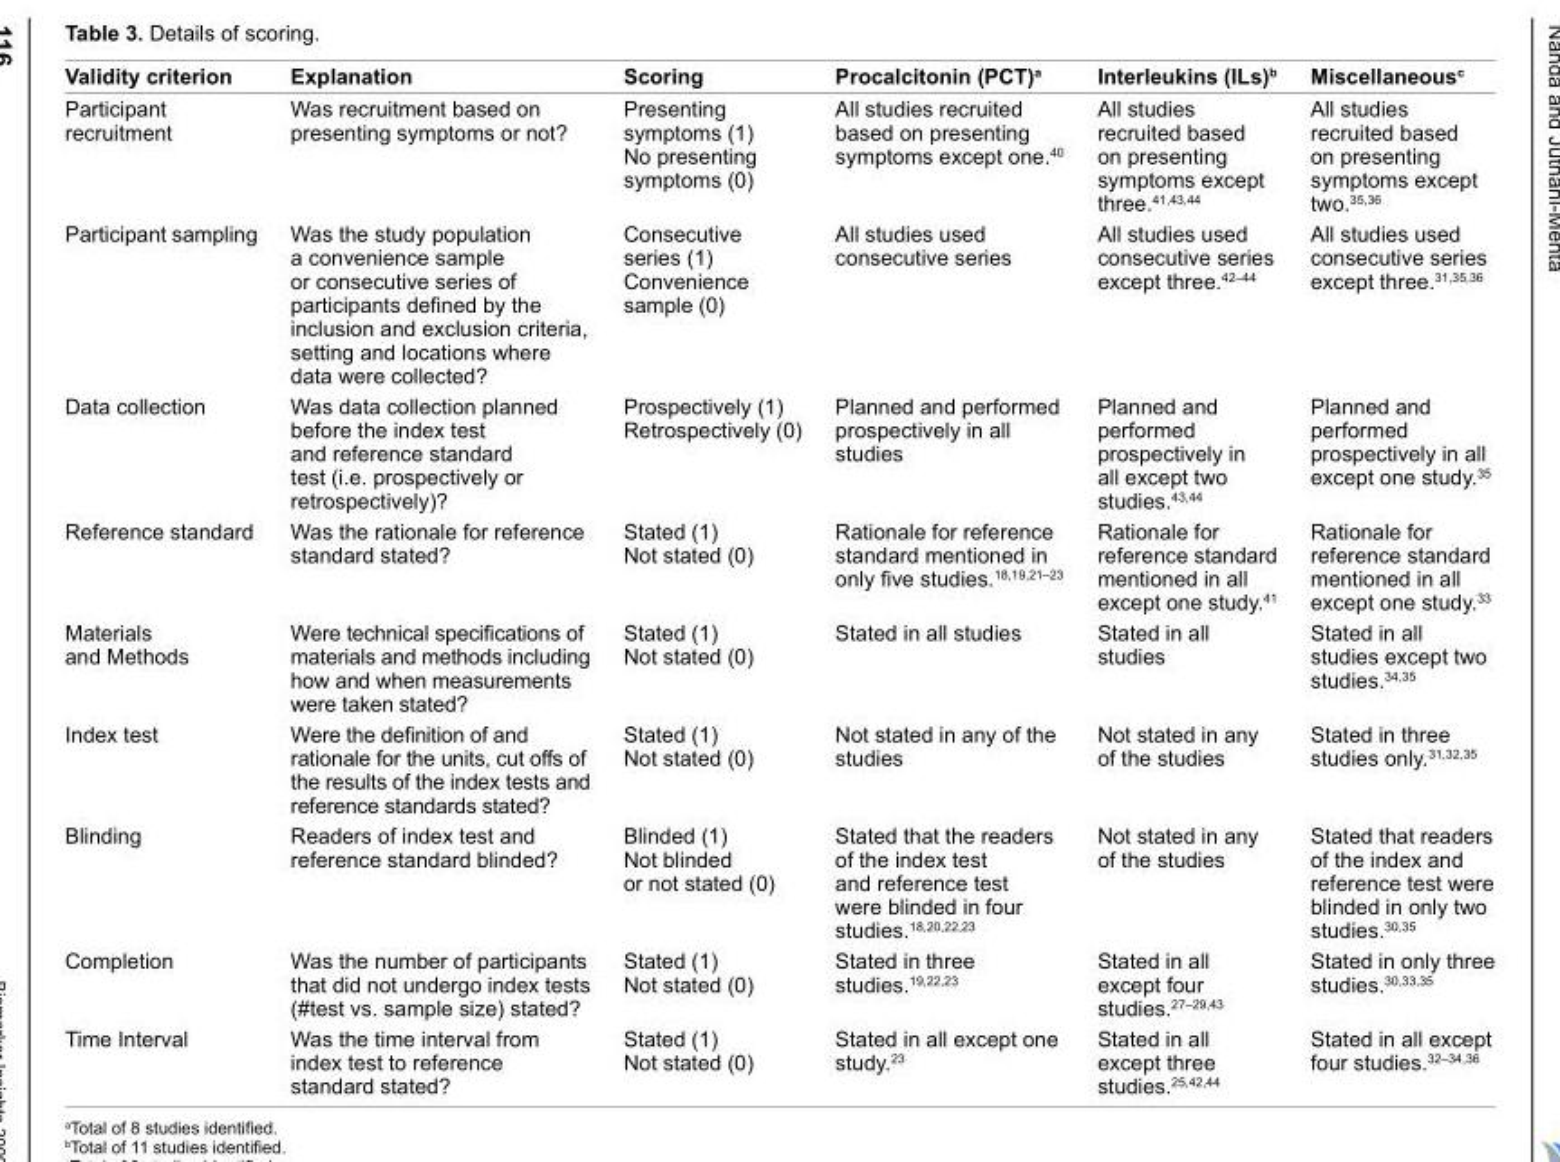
<table><thead><tr><td>Validity criterion</td><td>explanation</td><td>scoring</td><td>procalcitonin (pcT)<sup>a</sup></td><td>Interleukins (ILs)<sup>b</sup></td><td>Miscellaneous<sup>c</sup></td></tr></thead><tbody><tr><td>Participant recruitment</td><td>was recruitment based on presenting symptoms or not?</td><td>Presenting symptoms (1) No presenting symptoms (0)</td><td>All studies recruited based on presenting symptoms except one.<sup>40</sup></td><td>All studies recruited based on presenting symptoms except three.<sup>41</sup>,<sup>43</sup>,<sup>44</sup></td><td>All studies recruited based on presenting symptoms except two.<sup>35</sup>,<sup>36</sup></td></tr><tr><td>Participant sampling</td><td>was the study population a convenience sample or consecutive series of participants defined by the inclusion and exclusion criteria, setting and locations where data were collected?</td><td>Consecutive series (1) Convenience sample (0)</td><td>All studies used consecutive series</td><td>All studies used consecutive series except three.<sup>42</sup>–<sup>44</sup></td><td>All studies used consecutive series except three.<sup>31</sup>,<sup>35</sup>,<sup>36</sup></td></tr><tr><td>Data collection</td><td>was data collection planned before the index test and reference standard test (i.e. prospectively or retrospectively)?</td><td>Prospectively (1) Retrospectively (0)</td><td>Planned and performed prospectively in all studies</td><td>Planned and performed prospectively in all except two studies.<sup>43</sup>,<sup>44</sup></td><td>Planned and performed prospectively in all except one study.<sup>35</sup></td></tr><tr><td>Reference standard</td><td>was the rationale for reference standard stated?</td><td>Stated (1) Not stated (0)</td><td>Rationale for reference standard mentioned in only five studies.<sup>18</sup>,<sup>19</sup>,<sup>21</sup>–<sup>23</sup></td><td>Rationale for reference standard mentioned in all except one study.<sup>41</sup></td><td>Rationale for reference standard mentioned in all except one study.<sup>33</sup></td></tr><tr><td>Materials and Methods</td><td>Were technical specifications of materials and methods including how and when measurements were taken stated?</td><td>Stated (1) Not stated (0)</td><td>Stated in all studies</td><td>Stated in all studies</td><td>Stated in all studies except two studies.<sup>34</sup>,<sup>35</sup></td></tr><tr><td>Index test</td><td>Were the definition of and rationale for the units, cut offs of the results of the index tests and reference standards stated?</td><td>Stated (1) Not stated (0)</td><td>Not stated in any of the studies</td><td>Not stated in any of the studies</td><td>Stated in three studies only.<sup>31</sup>,<sup>32</sup>,<sup>35</sup></td></tr><tr><td>Blinding</td><td>Readers of index test and reference standard blinded?</td><td>Blinded (1) Not blinded or not stated (0)</td><td>Stated that the readers of the index test and reference test were blinded in four studies.<sup>18</sup>,<sup>20</sup>,<sup>22</sup>,<sup>23</sup></td><td>Not stated in any of the studies</td><td>Stated that readers of the index and reference test were blinded in only two studies.<sup>30</sup>,<sup>35</sup></td></tr><tr><td>Completion</td><td>was the number of participants that did not undergo index tests (#test vs. sample size) stated?</td><td>Stated (1) Not stated (0)</td><td>Stated in three studies.<sup>19</sup>,<sup>22</sup>,<sup>23</sup></td><td>Stated in all except four studies.<sup>27</sup>–<sup>29</sup>,<sup>43</sup></td><td>Stated in only three studies.<sup>30</sup>,<sup>33</sup>,<sup>35</sup></td></tr><tr><td>Time Interval</td><td>was the time interval from index test to reference standard stated?</td><td>Stated (1) Not stated (0)</td><td>Stated in all except one study.<sup>23</sup></td><td>Stated in all except three studies.<sup>25</sup>,<sup>42</sup>,<sup>44</sup></td><td>Stated in all except four studies.<sup>32</sup>–<sup>34</sup>,<sup>36</sup></td></tr></tbody></table>